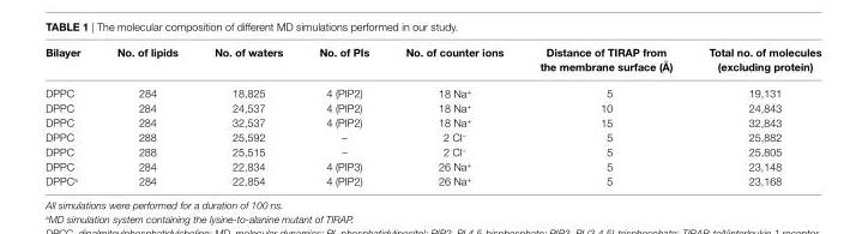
<table><thead><tr><td>Bilayer</td><td>no. of lipids</td><td>no. of waters</td><td>no. of Pis</td><td>no. of counter ions</td><td>Distance of TiraP from the membrane surface (Å)</td><td>Total no. of molecules (excluding protein)</td></tr></thead><tbody><tr><td>DPPC</td><td>284</td><td>18,825</td><td>4 (PIP2)</td><td>18 Na<sup>+</sup></td><td>5</td><td>19,131</td></tr><tr><td>DPPC</td><td>284</td><td>24,537</td><td>4 (PIP2)</td><td>18 Na<sup>+</sup></td><td>10</td><td>24,843</td></tr><tr><td>DPPC</td><td>284</td><td>32,537</td><td>4 (PIP2)</td><td>18 Na<sup>+</sup></td><td>15</td><td>32,843</td></tr><tr><td>DPPC</td><td>288</td><td>25,592</td><td>–</td><td>2 Cl<sup>−</sup></td><td>5</td><td>25,882</td></tr><tr><td>DPPC</td><td>288</td><td>25,515</td><td>–</td><td>2 Cl<sup>−</sup></td><td>5</td><td>25,805</td></tr><tr><td>DPPC</td><td>284</td><td>22,834</td><td>4 (PIP3)</td><td>26 Na<sup>+</sup></td><td>5</td><td>23,148</td></tr><tr><td>DPPC<sup>a</sup></td><td>284</td><td>22,854</td><td>4 (PIP2)</td><td>26 Na<sup>+</sup></td><td>5</td><td>23,168</td></tr></tbody></table>